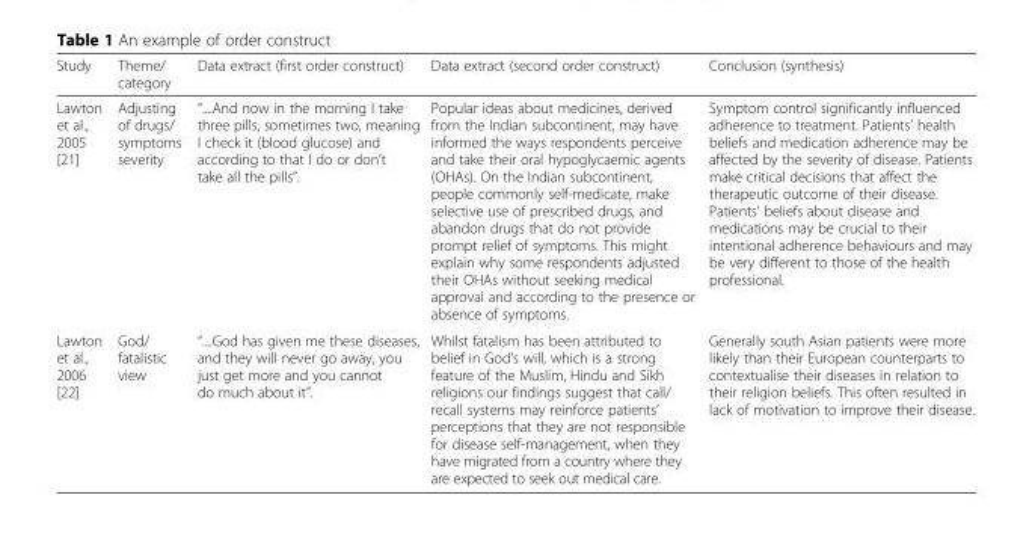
<table><thead><tr><td>Study</td><td>Theme/ category</td><td>Data extract (first order construct)</td><td>Data extract (second order construct)</td><td>Conclusion (synthesis)</td></tr></thead><tbody><tr><td>Lawton et al., 2005 [21]</td><td>Adjusting of drugs/ symptoms severity</td><td>“....And now in the morning I take three pills, sometimes two, meaning I check it (blood glucose) and according to that I do or don’t take all the pills”.</td><td>Popular ideas about medicines, derived from the Indian subcontinent, may have informed the ways respondents perceive and take their oral hypoglycaemic agents (OHAs). On the Indian subcontinent, people commonly self-medicate, make selective use of prescribed drugs, and abandon drugs that do not provide prompt relief of symptoms. This might explain why some respondents adjusted their OHAs without seeking medical approval and according to the presence or absence of symptoms.</td><td>Symptom control significantly influenced adherence to treatment. Patients’ health beliefs and medication adherence may be affected by the severity of disease. Patients make critical decisions that affect the therapeutic outcome of their disease. Patients’ beliefs about disease and medications may be crucial to their intentional adherence behaviours and may be very different to those of the health professional.</td></tr><tr><td>Lawton et al., 2006 [22]</td><td>God/ fatalistic view</td><td>“....God has given me these diseases, and they will never go away, you just get more and you cannot do much about it”.</td><td>Whilst fatalism has been attributed to belief in God’s will, which is a strong feature of the Muslim, Hindu and Sikh religions our findings suggest that call/ recall systems may reinforce patients’ perceptions that they are not responsible for disease self-management, when they have migrated from a country where they are expected to seek out medical care.</td><td>Generally south Asian patients were more likely than their European counterparts to contextualise their diseases in relation to their religion beliefs. This often resulted in lack of motivation to improve their disease.</td></tr></tbody></table>